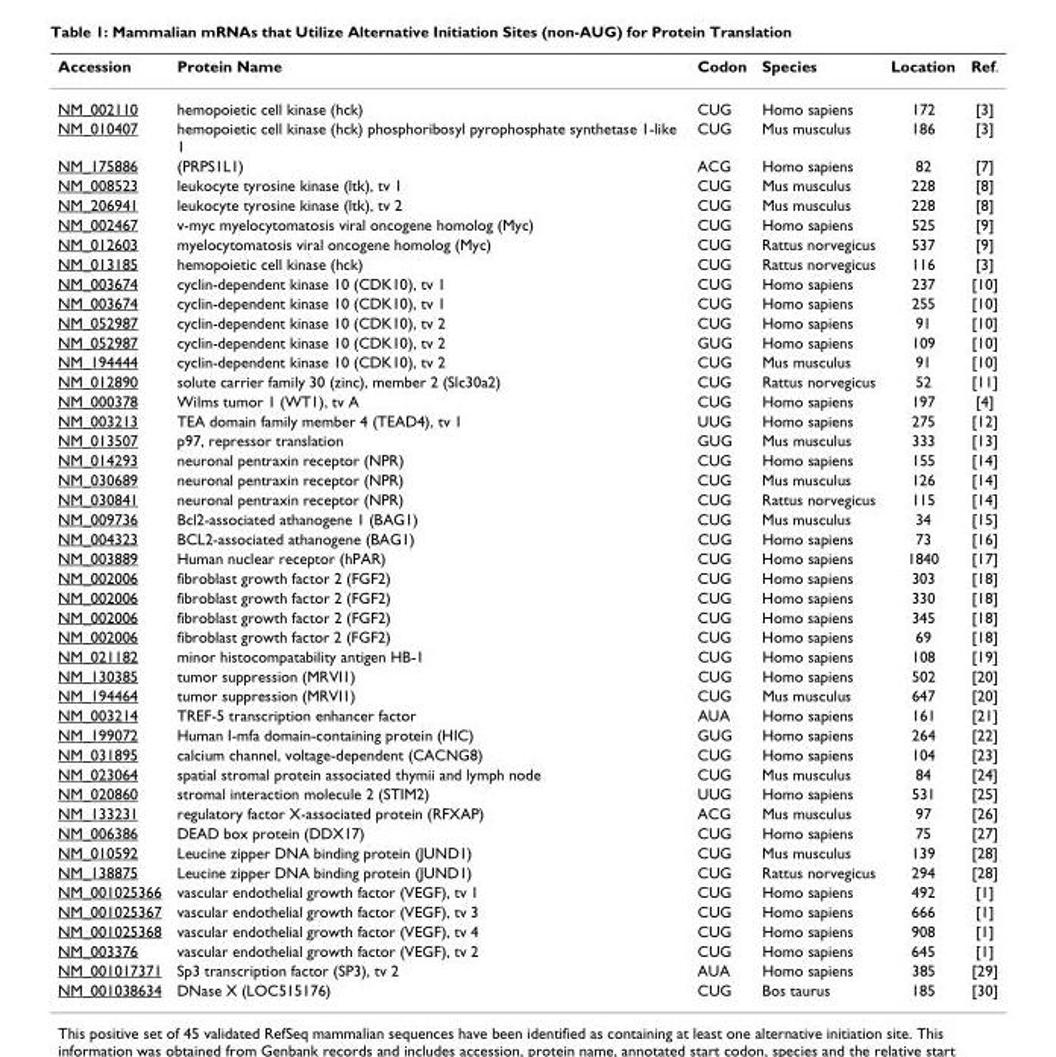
<table><thead><tr><td>Accession</td><td>Protein Name</td><td>Codon</td><td>Species</td><td>Location</td><td>Ref.</td></tr></thead><tbody><tr><td>NM_002110</td><td>hemopoietic cell kinase (hck)</td><td>CUG</td><td>Homo sapiens</td><td>172</td><td>[3]</td></tr><tr><td>NM_010407</td><td>hemopoietic cell kinase (hck) phosphoribosyl pyrophosphate synthetase 1-like 1</td><td>CUG</td><td>Mus musculus</td><td>186</td><td>[3]</td></tr><tr><td>NM_175886</td><td>(PRPS1L1)</td><td>ACG</td><td>Homo sapiens</td><td>82</td><td>[7]</td></tr><tr><td>NM_008523</td><td>leukocyte tyrosine kinase (ltk), tv 1</td><td>CUG</td><td>Mus musculus</td><td>228</td><td>[8]</td></tr><tr><td>NM_206941</td><td>leukocyte tyrosine kinase (ltk), tv 2</td><td>CUG</td><td>Mus musculus</td><td>228</td><td>[8]</td></tr><tr><td>NM_002467</td><td>v-myc myelocytomatosis viral oncogene homolog (Myc)</td><td>CUG</td><td>Homo sapiens</td><td>525</td><td>[9]</td></tr><tr><td>NM_012603</td><td>myelocytomatosis viral oncogene homolog (Myc)</td><td>CUG</td><td>Rattus norvegicus</td><td>537</td><td>[9]</td></tr><tr><td>NM_013185</td><td>hemopoietic cell kinase (hck)</td><td>CUG</td><td>Rattus norvegicus</td><td>116</td><td>[3]</td></tr><tr><td>NM_003674</td><td>cyclin-dependent kinase 10 (CDK10), tv 1</td><td>CUG</td><td>Homo sapiens</td><td>237</td><td>[10]</td></tr><tr><td>NM_003674</td><td>cyclin-dependent kinase 10 (CDK10), tv 1</td><td>CUG</td><td>Homo sapiens</td><td>255</td><td>[10]</td></tr><tr><td>NM_052987</td><td>cyclin-dependent kinase 10 (CDK10), tv 2</td><td>CUG</td><td>Homo sapiens</td><td>91</td><td>[10]</td></tr><tr><td>NM_052987</td><td>cyclin-dependent kinase 10 (CDK10), tv 2</td><td>GUG</td><td>Homo sapiens</td><td>109</td><td>[10]</td></tr><tr><td>NM_194444</td><td>cyclin-dependent kinase 10 (CDK10), tv 2</td><td>CUG</td><td>Mus musculus</td><td>91</td><td>[10]</td></tr><tr><td>NM_012890</td><td>solute carrier family 30 (zinc), member 2 (Slc30a2)</td><td>CUG</td><td>Rattus norvegicus</td><td>52</td><td>[11]</td></tr><tr><td>NM_000378</td><td>Wilms tumor 1 (WT1), tv A</td><td>CUG</td><td>Homo sapiens</td><td>197</td><td>[4]</td></tr><tr><td>NM_003213</td><td>TEA domain family member 4 (TEAD4), tv 1</td><td>UUG</td><td>Homo sapiens</td><td>275</td><td>[12]</td></tr><tr><td>NM_013507</td><td>p97, repressor translation</td><td>GUG</td><td>Mus musculus</td><td>333</td><td>[13]</td></tr><tr><td>NM_014293</td><td>neuronal pentraxin receptor (NPR)</td><td>CUG</td><td>Homo sapiens</td><td>155</td><td>[14]</td></tr><tr><td>NM_030689</td><td>neuronal pentraxin receptor (NPR)</td><td>CUG</td><td>Mus musculus</td><td>126</td><td>[14]</td></tr><tr><td>NM_030841</td><td>neuronal pentraxin receptor (NPR)</td><td>CUG</td><td>Rattus norvegicus</td><td>115</td><td>[14]</td></tr><tr><td>NM_009736</td><td>Bcl2-associated athanogene 1 (BAG1)</td><td>CUG</td><td>Mus musculus</td><td>34</td><td>[15]</td></tr><tr><td>NM_004323</td><td>BCL2-associated athanogene (BAG1)</td><td>CUG</td><td>Homo sapiens</td><td>73</td><td>[16]</td></tr><tr><td>NM_003889</td><td>Human nuclear receptor (hPAR)</td><td>CUG</td><td>Homo sapiens</td><td>1840</td><td>[17]</td></tr><tr><td>NM_002006</td><td>fibroblast growth factor 2 (FGF2)</td><td>CUG</td><td>Homo sapiens</td><td>303</td><td>[18]</td></tr><tr><td>NM_002006</td><td>fibroblast growth factor 2 (FGF2)</td><td>CUG</td><td>Homo sapiens</td><td>330</td><td>[18]</td></tr><tr><td>NM_002006</td><td>fibroblast growth factor 2 (FGF2)</td><td>CUG</td><td>Homo sapiens</td><td>345</td><td>[18]</td></tr><tr><td>NM_002006</td><td>fibroblast growth factor 2 (FGF2)</td><td>CUG</td><td>Homo sapiens</td><td>69</td><td>[18]</td></tr><tr><td>NM_021182</td><td>minor histocompatability antigen HB-1</td><td>CUG</td><td>Homo sapiens</td><td>108</td><td>[19]</td></tr><tr><td>NM_130385</td><td>tumor suppression (MRVI1)</td><td>CUG</td><td>Homo sapiens</td><td>502</td><td>[20]</td></tr><tr><td>NM_194464</td><td>tumor suppression (MRVI1)</td><td>CUG</td><td>Mus musculus</td><td>647</td><td>[20]</td></tr><tr><td>NM_003214</td><td>TREF-5 transcription enhancer factor</td><td>AUA</td><td>Homo sapiens</td><td>161</td><td>[21]</td></tr><tr><td>NM_199072</td><td>Human I-mfa domain-containing protein (HIC)</td><td>GUG</td><td>Homo sapiens</td><td>264</td><td>[22]</td></tr><tr><td>NM_031895</td><td>calcium channel, voltage-dependent (CACNG8)</td><td>CUG</td><td>Homo sapiens</td><td>104</td><td>[23]</td></tr><tr><td>NM_023064</td><td>spatial stromal protein associated thymii and lymph node</td><td>CUG</td><td>Mus musculus</td><td>84</td><td>[24]</td></tr><tr><td>NM_020860</td><td>stromal interaction molecule 2 (STIM2)</td><td>UUG</td><td>Homo sapiens</td><td>531</td><td>[25]</td></tr><tr><td>NM_133231</td><td>regulatory factor X-associated protein (RFXAP)</td><td>ACG</td><td>Mus musculus</td><td>97</td><td>[26]</td></tr><tr><td>NM_006386</td><td>DEAD box protein (DDX17)</td><td>CUG</td><td>Homo sapiens</td><td>75</td><td>[27]</td></tr><tr><td>NM_010592</td><td>Leucine zipper DNA binding protein (JUND1)</td><td>CUG</td><td>Mus musculus</td><td>139</td><td>[28]</td></tr><tr><td>NM_138875</td><td>Leucine zipper DNA binding protein (JUND1)</td><td>CUG</td><td>Rattus norvegicus</td><td>294</td><td>[28]</td></tr><tr><td>NM_001025366</td><td>vascular endothelial growth factor (VEGF), tv 1</td><td>CUG</td><td>Homo sapiens</td><td>492</td><td>[1]</td></tr><tr><td>NM_001025367</td><td>vascular endothelial growth factor (VEGF), tv 3</td><td>CUG</td><td>Homo sapiens</td><td>666</td><td>[1]</td></tr><tr><td>NM_001025368</td><td>vascular endothelial growth factor (VEGF), tv 4</td><td>CUG</td><td>Homo sapiens</td><td>908</td><td>[1]</td></tr><tr><td>NM_003376</td><td>vascular endothelial growth factor (VEGF), tv 2</td><td>CUG</td><td>Homo sapiens</td><td>645</td><td>[1]</td></tr><tr><td>NM_001017371</td><td>Sp3 transcription factor (SP3), tv 2</td><td>AUA</td><td>Homo sapiens</td><td>385</td><td>[29]</td></tr><tr><td>NM_001038634</td><td>DNase X (LOC515176)</td><td>CUG</td><td>Bos taurus</td><td>185</td><td>[30]</td></tr></tbody></table>